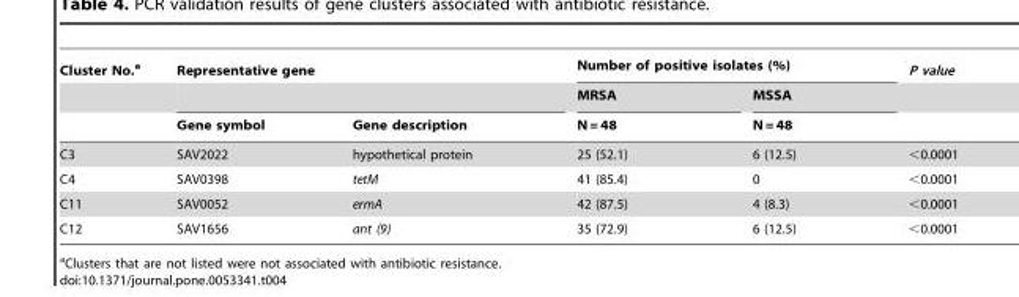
<table><thead><tr><td rowspan="3">Cluster No.<sup>a</sup></td><td colspan="2">Representative gene</td><td colspan="2">Number of positive isolates (%)</td><td rowspan="3">P value</td></tr><tr><td rowspan="2">Gene symbol</td><td rowspan="2">Gene description</td><td rowspan="2">MRSA N = 48</td><td rowspan="2">MSSA N = 48</td></tr><tr></tr></thead><tbody><tr><td>C3</td><td>SAV2022</td><td>hypothetical protein</td><td>25 (52.1)</td><td>6 (12.5)</td><td>&lt;0.0001</td></tr><tr><td>C4</td><td>SAV0398</td><td>tetM</td><td>41 (85.4)</td><td>0</td><td>&lt;0.0001</td></tr><tr><td>C11</td><td>SAV0052</td><td>ermA</td><td>42 (87.5)</td><td>4 (8.3)</td><td>&lt;0.0001</td></tr><tr><td>C12</td><td>SAV1656</td><td>ant (9)</td><td>35 (72.9)</td><td>6 (12.5)</td><td>&lt;0.0001</td></tr></tbody></table>